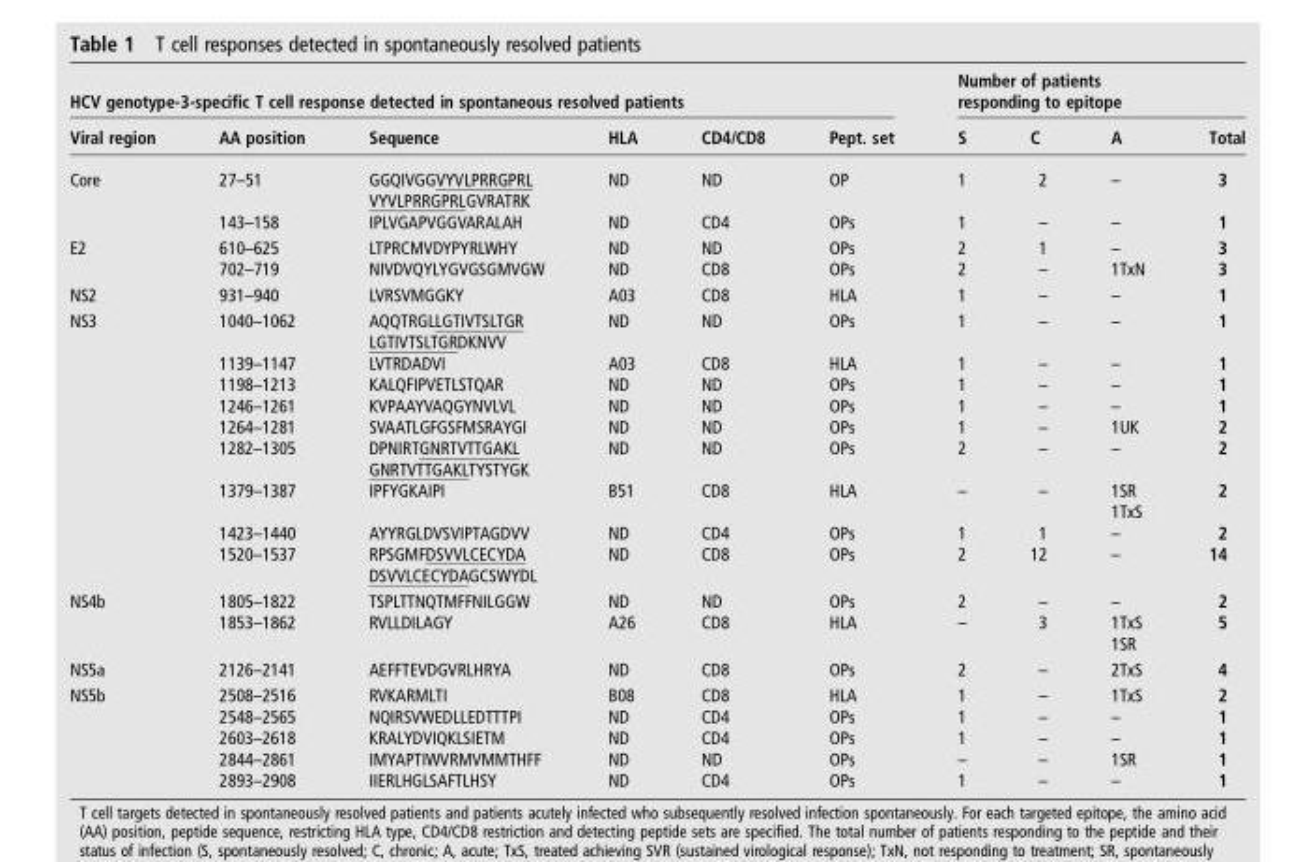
<table><thead><tr><td colspan="6">HCV genotype-3-specific T cell response detected in spontaneous resolved patients</td><td colspan="4">Number of patients responding to epitope</td></tr><tr><td>Viral region</td><td>AA position</td><td>Sequence</td><td>HLA</td><td>CD4/CD8</td><td>Pept. set</td><td>S</td><td>C</td><td>A</td><td>Total</td></tr></thead><tbody><tr><td rowspan="2">Core</td><td>27–51</td><td>GGQIVGGVYVLPRRGPRL VYVLPRRGPRLGVRATRK</td><td>ND</td><td>ND</td><td>OP</td><td>1</td><td>2</td><td>–</td><td>3</td></tr><tr><td>143–158</td><td>IPLVGAPVGGVARALAH</td><td>ND</td><td>CD4</td><td>OPs</td><td>1</td><td>–</td><td>–</td><td>1</td></tr><tr><td rowspan="2">E2</td><td>610–625</td><td>LTPRCMVDYPYRLWHY</td><td>ND</td><td>ND</td><td>OPs</td><td>2</td><td>1</td><td>–</td><td>3</td></tr><tr><td>702–719</td><td>NIVDVQYLYGVGSGMVGW</td><td>ND</td><td>CD8</td><td>OPs</td><td>2</td><td>–</td><td>1TxN</td><td>3</td></tr><tr><td>NS2</td><td>931–940</td><td>LVRSVMGGKY</td><td>A03</td><td>CD8</td><td>HLA</td><td>1</td><td>–</td><td>–</td><td>1</td></tr><tr><td rowspan="9">NS3</td><td>1040–1062</td><td>AQQTRGLLGTIVTSLTGR LGTIVTSLTGRDKNVV</td><td>ND</td><td>ND</td><td>OPs</td><td>1</td><td>–</td><td>–</td><td>1</td></tr><tr><td>1139–1147</td><td>LVTRDADVI</td><td>A03</td><td>CD8</td><td>HLA</td><td>1</td><td>–</td><td>–</td><td>1</td></tr><tr><td>1198–1213</td><td>KALQFIPVETLSTQAR</td><td>ND</td><td>ND</td><td>OPs</td><td>1</td><td>–</td><td>–</td><td>1</td></tr><tr><td>1246–1261</td><td>KVPAAYVAQGYNVLVL</td><td>ND</td><td>ND</td><td>OPs</td><td>1</td><td>–</td><td>–</td><td>1</td></tr><tr><td>1264–1281</td><td>SVAATLGFGSFMSRAYGI</td><td>ND</td><td>ND</td><td>OPs</td><td>1</td><td>–</td><td>1UK</td><td>2</td></tr><tr><td>1282–1305</td><td>DPNIRTGNRTVTTGAKL GNRTVTTGAKLTYSTYGK</td><td>ND</td><td>ND</td><td>OPs</td><td>2</td><td>–</td><td>–</td><td>2</td></tr><tr><td>1379–1387</td><td>IPFYGKAIPI</td><td>B51</td><td>CD8</td><td>HLA</td><td>–</td><td>–</td><td>1SR 1TxS</td><td>2</td></tr><tr><td>1423–1440</td><td>AYYRGLDVSVIPTAGDVV</td><td>ND</td><td>CD4</td><td>OPs</td><td>1</td><td>1</td><td>–</td><td>2</td></tr><tr><td>1520–1537</td><td>RPSGMFDSVVLCECYDA DSVVLCECYDAGCSWYDL</td><td>ND</td><td>CD8</td><td>OPs</td><td>2</td><td>12</td><td>–</td><td>14</td></tr><tr><td rowspan="2">NS4b</td><td>1805–1822</td><td>TSPLTTNQTMFFNILGGW</td><td>ND</td><td>ND</td><td>OPs</td><td>2</td><td>–</td><td>–</td><td>2</td></tr><tr><td>1853–1862</td><td>RVLLDILAGY</td><td>A26</td><td>CD8</td><td>HLA</td><td>–</td><td>3</td><td>1TxS 1SR</td><td>5</td></tr><tr><td>NS5a</td><td>2126–2141</td><td>AEFFTEVDGVRLHRYA</td><td>ND</td><td>CD8</td><td>OPs</td><td>2</td><td>–</td><td>2TxS</td><td>4</td></tr><tr><td rowspan="5">NS5b</td><td>2508–2516</td><td>RVKARMLTI</td><td>B08</td><td>CD8</td><td>HLA</td><td>1</td><td>–</td><td>1TxS</td><td>2</td></tr><tr><td>2548–2565</td><td>NQIRSVWEDLLEDTTTPI</td><td>ND</td><td>CD4</td><td>OPs</td><td>1</td><td>–</td><td>–</td><td>1</td></tr><tr><td>2603–2618</td><td>KRALYDVIQKLSIETM</td><td>ND</td><td>CD4</td><td>OPs</td><td>1</td><td>–</td><td>–</td><td>1</td></tr><tr><td>2844–2861</td><td>IMYAPTIWVRMVMMTHFF</td><td>ND</td><td>ND</td><td>OPs</td><td>–</td><td>–</td><td>1SR</td><td>1</td></tr><tr><td>2893–2908</td><td>IIERLHGLSAFTLHSY</td><td>ND</td><td>CD4</td><td>OPs</td><td>1</td><td>–</td><td>–</td><td>1</td></tr></tbody></table>